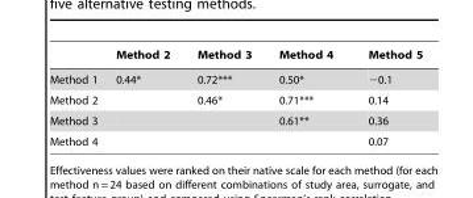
<table><thead><tr><td></td><td>Method 2</td><td>Method 3</td><td>Method 4</td><td>Method 5</td></tr></thead><tbody><tr><td>Method 1</td><td>0.44*</td><td>0.72***</td><td>0.50*</td><td>−0.1</td></tr><tr><td>Method 2</td><td></td><td>0.46*</td><td>0.71***</td><td>0.14</td></tr><tr><td>Method 3</td><td></td><td></td><td>0.61**</td><td>0.36</td></tr><tr><td>Method 4</td><td></td><td></td><td></td><td>0.07</td></tr></tbody></table>